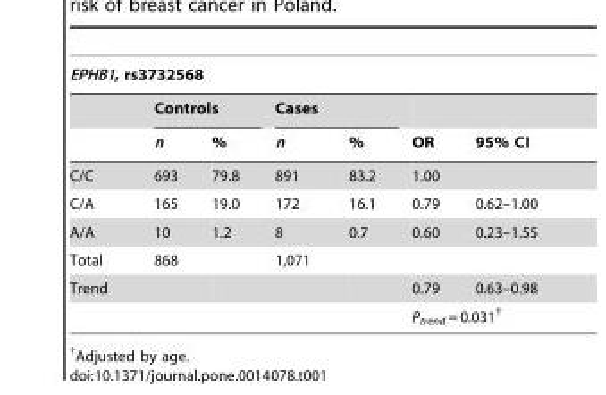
<table><thead><tr><td colspan="7">EPHB1, rs3732568</td></tr><tr><td rowspan="2"></td><td colspan="2">Controls</td><td colspan="2">Cases</td><td rowspan="2">OR</td><td rowspan="2">95% CI</td></tr><tr><td>n</td><td>%</td><td>n</td><td>%</td></tr></thead><tbody><tr><td>C/C</td><td>693</td><td>79.8</td><td>891</td><td>83.2</td><td>1.00</td><td></td></tr><tr><td>C/A</td><td>165</td><td>19.0</td><td>172</td><td>16.1</td><td>0.79</td><td>0.62–1.00</td></tr><tr><td>A/A</td><td>10</td><td>1.2</td><td>8</td><td>0.7</td><td>0.60</td><td>0.23–1.55</td></tr><tr><td>Total</td><td>868</td><td></td><td>1,071</td><td></td><td></td><td></td></tr><tr><td rowspan="2">Trend</td><td></td><td></td><td></td><td></td><td>0.79</td><td>0.63–0.98</td></tr><tr><td></td><td></td><td></td><td></td><td colspan="2">P<sub>trend</sub> = 0.031†</td></tr></tbody></table>